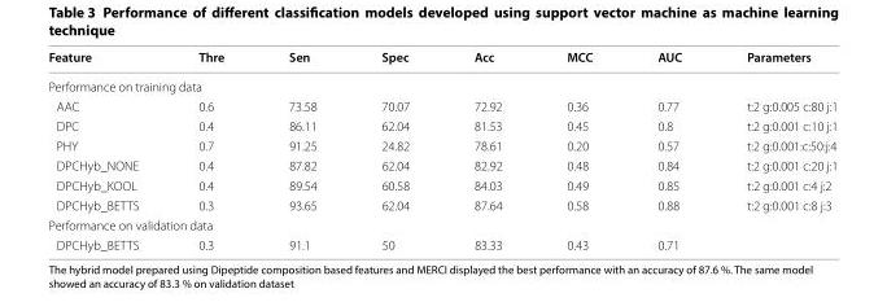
<table><thead><tr><td>Feature</td><td>Thre</td><td>Sen</td><td>Spec</td><td>Acc</td><td>MCC</td><td>AUC</td><td>Parameters</td></tr></thead><tbody><tr><td colspan="8">Performance on training data</td></tr><tr><td>AAC</td><td>0.6</td><td>73.58</td><td>70.07</td><td>72.92</td><td>0.36</td><td>0.77</td><td>t:2 g:0.005 c:80 j:1</td></tr><tr><td>DPC</td><td>0.4</td><td>86.11</td><td>62.04</td><td>81.53</td><td>0.45</td><td>0.8</td><td>t:2 g:0.001 c:10 j:1</td></tr><tr><td>PHY</td><td>0.7</td><td>91.25</td><td>24.82</td><td>78.61</td><td>0.20</td><td>0.57</td><td>t:2 g:0.001:c:50:j:4</td></tr><tr><td>DPCHyb_NONE</td><td>0.4</td><td>87.82</td><td>62.04</td><td>82.92</td><td>0.48</td><td>0.84</td><td>t:2 g:0.001 c:20 j:1</td></tr><tr><td>DPCHyb_KOOL</td><td>0.4</td><td>89.54</td><td>60.58</td><td>84.03</td><td>0.49</td><td>0.85</td><td>t:2 g:0.001 c:4 j:2</td></tr><tr><td>DPCHyb_BETTS</td><td>0.3</td><td>93.65</td><td>62.04</td><td>87.64</td><td>0.58</td><td>0.88</td><td>t:2 g:0.001 c:8 j:3</td></tr><tr><td colspan="8">Performance on validation data</td></tr><tr><td>DPCHyb_BETTS</td><td>0.3</td><td>91.1</td><td>50</td><td>83.33</td><td>0.43</td><td>0.71</td><td></td></tr></tbody></table>